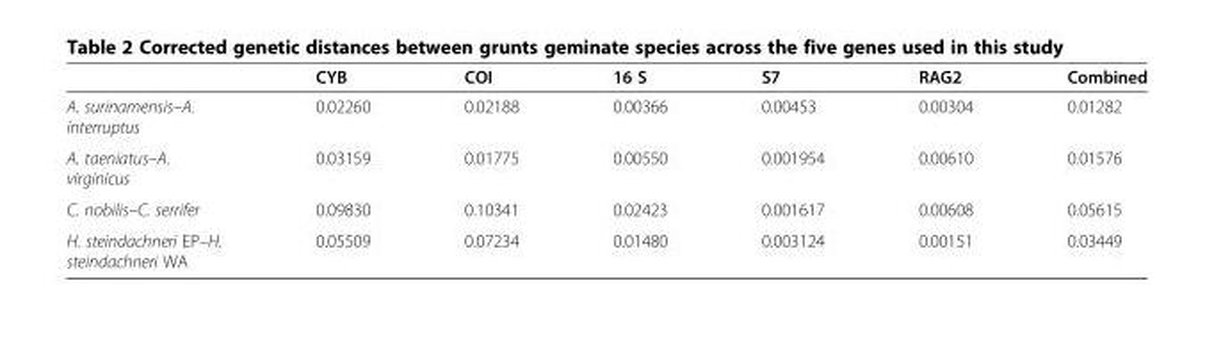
<table><thead><tr><td></td><td>CYB</td><td>COI</td><td>16 S</td><td>S7</td><td>RAG2</td><td>Combined</td></tr></thead><tbody><tr><td>A. surinamensis–A. interruptus</td><td>0.02260</td><td>0.02188</td><td>0.00366</td><td>0.00453</td><td>0.00304</td><td>0.01282</td></tr><tr><td>A. taeniatus–A. virginicus</td><td>0.03159</td><td>0.01775</td><td>0.00550</td><td>0.001954</td><td>0.00610</td><td>0.01576</td></tr><tr><td>C. nobilis–C. serrifer</td><td>0.09830</td><td>0.10341</td><td>0.02423</td><td>0.001617</td><td>0.00608</td><td>0.05615</td></tr><tr><td>H. steindachneri EP–H. steindachneri WA</td><td>0.05509</td><td>0.07234</td><td>0.01480</td><td>0.003124</td><td>0.00151</td><td>0.03449</td></tr></tbody></table>